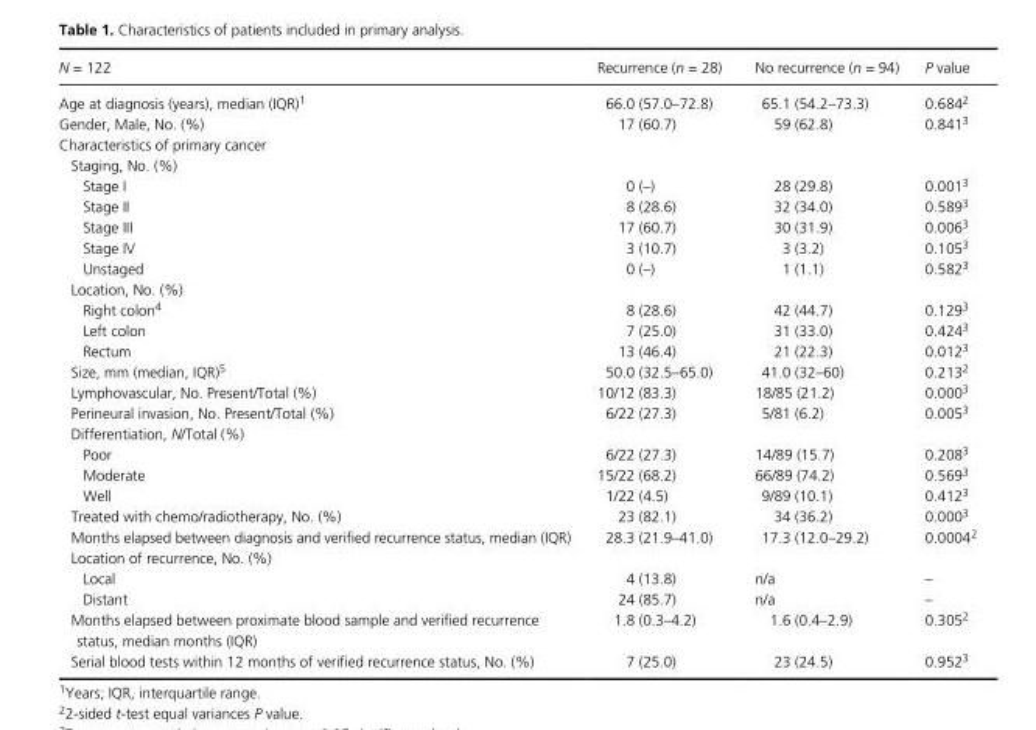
<table><thead><tr><td>N = 122</td><td>Recurrence (n = 28)</td><td>No recurrence (n = 94)</td><td>P value</td></tr></thead><tbody><tr><td>Age at diagnosis (years), median (IQR)1</td><td>66.0 (57.0–72.8)</td><td>65.1 (54.2–73.3)</td><td>0.6842</td></tr><tr><td>Gender, Male, No. (%)</td><td>17 (60.7)</td><td>59 (62.8)</td><td>0.8413</td></tr><tr><td colspan="4">Characteristics of primary cancer</td></tr><tr><td colspan="4">Staging, No. (%)</td></tr><tr><td>Stage I</td><td>0 (– )</td><td>28 (29.8)</td><td>0.0013</td></tr><tr><td>Stage II</td><td>8 (28.6)</td><td>32 (34.0)</td><td>0.5893</td></tr><tr><td>Stage III</td><td>17 (60.7)</td><td>30 (31.9)</td><td>0.0063</td></tr><tr><td>Stage IV</td><td>3 (10.7)</td><td>3 (3.2)</td><td>0.1053</td></tr><tr><td>Unstaged</td><td>0 (– )</td><td>1 (1.1)</td><td>0.5823</td></tr><tr><td colspan="4">Location, No. (%)</td></tr><tr><td>Right colon4</td><td>8 (28.6)</td><td>42 (44.7)</td><td>0.1293</td></tr><tr><td>Left colon</td><td>7 (25.0)</td><td>31 (33.0)</td><td>0.4243</td></tr><tr><td>Rectum</td><td>13 (46.4)</td><td>21 (22.3)</td><td>0.0123</td></tr><tr><td>Size, mm (median, IQR)5</td><td>50.0 (32.5–65.0)</td><td>41.0 (32–60)</td><td>0.2132</td></tr><tr><td>Lymphovascular, No. Present/Total (%)</td><td>10/12 (83.3)</td><td>18/85 (21.2)</td><td>0.0003</td></tr><tr><td>Perineural invasion, No. Present/Total (%)</td><td>6/22 (27.3)</td><td>5/81 (6.2)</td><td>0.0053</td></tr><tr><td colspan="4">Differentiation, N/Total (%)</td></tr><tr><td>Poor</td><td>6/22 (27.3)</td><td>14/89 (15.7)</td><td>0.2083</td></tr><tr><td>Moderate</td><td>15/22 (68.2)</td><td>66/89 (74.2)</td><td>0.5693</td></tr><tr><td>Well</td><td>1/22 (4.5)</td><td>9/89 (10.1)</td><td>0.4123</td></tr><tr><td>Treated with chemo/radiotherapy, No. (%)</td><td>23 (82.1)</td><td>34 (36.2)</td><td>0.0003</td></tr><tr><td>Months elapsed between diagnosis and verified recurrence status, median (IQR)</td><td>28.3 (21.9–41.0)</td><td>17.3 (12.0–29.2)</td><td>0.00042</td></tr><tr><td colspan="4">Location of recurrence, No. (%)</td></tr><tr><td>Local</td><td>4 (13.8)</td><td>n/a</td><td>–</td></tr><tr><td>Distant</td><td>24 (85.7)</td><td>n/a</td><td>–</td></tr><tr><td>Months elapsed between proximate blood sample and verified recurrence status, median months (IQR)</td><td>1.8 (0.3–4.2)</td><td>1.6 (0.4–2.9)</td><td>0.3052</td></tr><tr><td>Serial blood tests within 12 months of verified recurrence status, No. (%)</td><td>7 (25.0)</td><td>23 (24.5)</td><td>0.9523</td></tr></tbody></table>